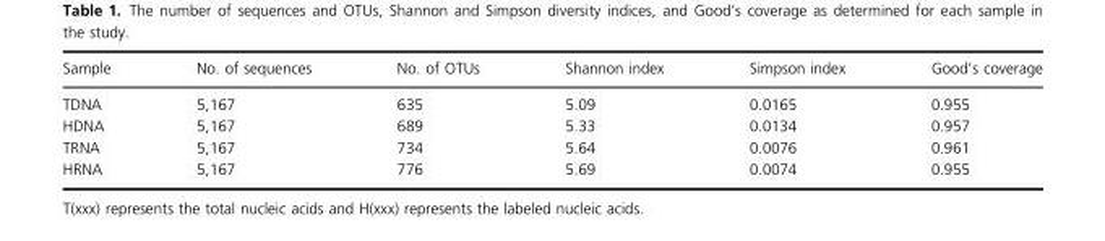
<table><thead><tr><td>Sample</td><td>No. of sequences</td><td>No. of OTUs</td><td>Shannon index</td><td>Simpson index</td><td>Good’s coverage</td></tr></thead><tbody><tr><td>TDNA</td><td>5,167</td><td>635</td><td>5.09</td><td>0.0165</td><td>0.955</td></tr><tr><td>HDNA</td><td>5,167</td><td>689</td><td>5.33</td><td>0.0134</td><td>0.957</td></tr><tr><td>TRNA</td><td>5,167</td><td>734</td><td>5.64</td><td>0.0076</td><td>0.961</td></tr><tr><td>HRNA</td><td>5,167</td><td>776</td><td>5.69</td><td>0.0074</td><td>0.955</td></tr></tbody></table>